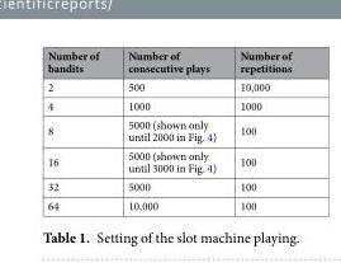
<table><thead><tr><td>Number of bandits</td><td>Number of consecutive plays</td><td>Number of repetitions</td></tr></thead><tbody><tr><td>2</td><td>500</td><td>10,000</td></tr><tr><td>4</td><td>1000</td><td>1000</td></tr><tr><td>8</td><td>5000 (shown only until 2000 in Fig. 4)</td><td>100</td></tr><tr><td>16</td><td>5000 (shown only until 3000 in Fig. 4)</td><td>100</td></tr><tr><td>32</td><td>5000</td><td>100</td></tr><tr><td>64</td><td>10,000</td><td>100</td></tr></tbody></table>